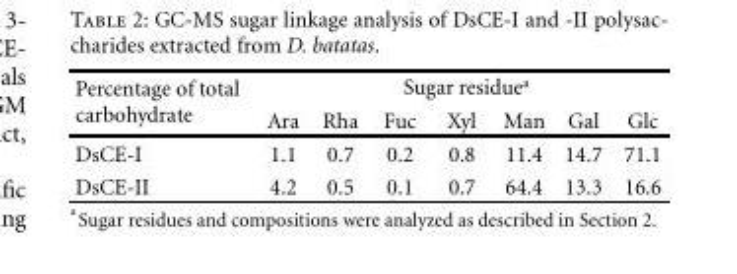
<table><thead><tr><td rowspan="2">Percentage of total carbohydrate</td><td colspan="7">Sugar residue<sup>a</sup></td></tr><tr><td>Ara</td><td>Rha</td><td>Fuc</td><td>Xyl</td><td>Man</td><td>Gal</td><td>Glc</td></tr></thead><tbody><tr><td>DsCE-I</td><td>1.1</td><td>0.7</td><td>0.2</td><td>0.8</td><td>11.4</td><td>14.7</td><td>71.1</td></tr><tr><td>DsCE-II</td><td>4.2</td><td>0.5</td><td>0.1</td><td>0.7</td><td>64.4</td><td>13.3</td><td>16.6</td></tr></tbody></table>